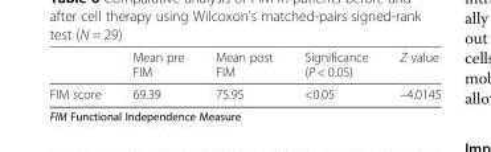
<table><thead><tr><td></td><td>Mean pre FIM</td><td>Mean post FIM</td><td>Significance (P &lt; 0.05)</td><td>Z value</td></tr></thead><tbody><tr><td>FIM score</td><td>69.39</td><td>75.95</td><td>&lt;0.05</td><td>–4.0145</td></tr></tbody></table>